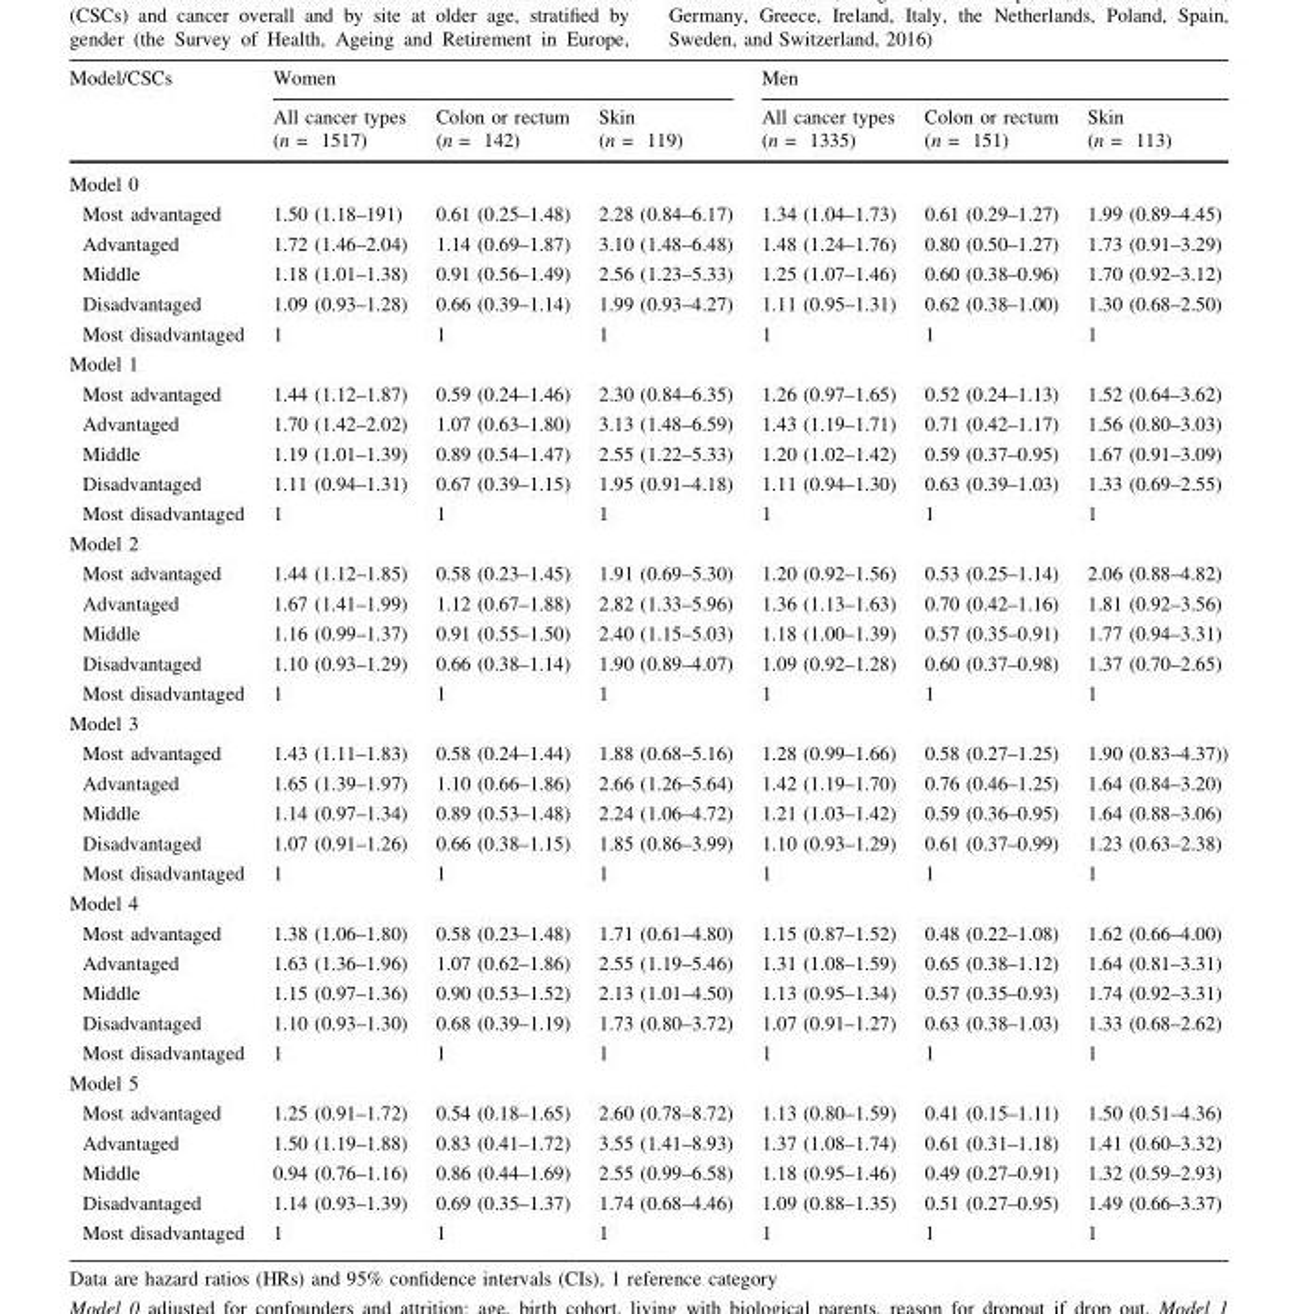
<table><thead><tr><td rowspan="3">Model/CSCs</td><td colspan="3">Women</td><td colspan="3">Men</td></tr><tr><td rowspan="2">All cancer types (n = 1517)</td><td rowspan="2">Colon or rectum (n = 142)</td><td rowspan="2">Skin (n = 119)</td><td rowspan="2">All cancer types (n = 1335)</td><td rowspan="2">Colon or rectum (n = 151)</td><td rowspan="2">Skin (n = 113)</td></tr><tr></tr></thead><tbody><tr><td colspan="7">Model 0</td></tr><tr><td>Most advantaged</td><td>1.50 (1.18–191)</td><td>0.61 (0.25–1.48)</td><td>2.28 (0.84–6.17)</td><td>1.34 (1.04–1.73)</td><td>0.61 (0.29–1.27)</td><td>1.99 (0.89–4.45)</td></tr><tr><td>Advantaged</td><td>1.72 (1.46–2.04)</td><td>1.14 (0.69–1.87)</td><td>3.10 (1.48–6.48)</td><td>1.48 (1.24–1.76)</td><td>0.80 (0.50–1.27)</td><td>1.73 (0.91–3.29)</td></tr><tr><td>Middle</td><td>1.18 (1.01–1.38)</td><td>0.91 (0.56–1.49)</td><td>2.56 (1.23–5.33)</td><td>1.25 (1.07–1.46)</td><td>0.60 (0.38–0.96)</td><td>1.70 (0.92–3.12)</td></tr><tr><td>Disadvantaged</td><td>1.09 (0.93–1.28)</td><td>0.66 (0.39–1.14)</td><td>1.99 (0.93–4.27)</td><td>1.11 (0.95–1.31)</td><td>0.62 (0.38–1.00)</td><td>1.30 (0.68–2.50)</td></tr><tr><td>Most disadvantaged</td><td>1</td><td>1</td><td>1</td><td>1</td><td>1</td><td>1</td></tr><tr><td colspan="7">Model 1</td></tr><tr><td>Most advantaged</td><td>1.44 (1.12–1.87)</td><td>0.59 (0.24–1.46)</td><td>2.30 (0.84–6.35)</td><td>1.26 (0.97–1.65)</td><td>0.52 (0.24–1.13)</td><td>1.52 (0.64–3.62)</td></tr><tr><td>Advantaged</td><td>1.70 (1.42–2.02)</td><td>1.07 (0.63–1.80)</td><td>3.13 (1.48–6.59)</td><td>1.43 (1.19–1.71)</td><td>0.71 (0.42–1.17)</td><td>1.56 (0.80–3.03)</td></tr><tr><td>Middle</td><td>1.19 (1.01–1.39)</td><td>0.89 (0.54–1.47)</td><td>2.55 (1.22–5.33)</td><td>1.20 (1.02–1.42)</td><td>0.59 (0.37–0.95)</td><td>1.67 (0.91–3.09)</td></tr><tr><td>Disadvantaged</td><td>1.11 (0.94–1.31)</td><td>0.67 (0.39–1.15)</td><td>1.95 (0.91–4.18)</td><td>1.11 (0.94–1.30)</td><td>0.63 (0.39–1.03)</td><td>1.33 (0.69–2.55)</td></tr><tr><td>Most disadvantaged</td><td>1</td><td>1</td><td>1</td><td>1</td><td>1</td><td>1</td></tr><tr><td colspan="7">Model 2</td></tr><tr><td>Most advantaged</td><td>1.44 (1.12–1.85)</td><td>0.58 (0.23–1.45)</td><td>1.91 (0.69–5.30)</td><td>1.20 (0.92–1.56)</td><td>0.53 (0.25–1.14)</td><td>2.06 (0.88–4.82)</td></tr><tr><td>Advantaged</td><td>1.67 (1.41–1.99)</td><td>1.12 (0.67–1.88)</td><td>2.82 (1.33–5.96)</td><td>1.36 (1.13–1.63)</td><td>0.70 (0.42–1.16)</td><td>1.81 (0.92–3.56)</td></tr><tr><td>Middle</td><td>1.16 (0.99–1.37)</td><td>0.91 (0.55–1.50)</td><td>2.40 (1.15–5.03)</td><td>1.18 (1.00–1.39)</td><td>0.57 (0.35–0.91)</td><td>1.77 (0.94–3.31)</td></tr><tr><td>Disadvantaged</td><td>1.10 (0.93–1.29)</td><td>0.66 (0.38–1.14)</td><td>1.90 (0.89–4.07)</td><td>1.09 (0.92–1.28)</td><td>0.60 (0.37–0.98)</td><td>1.37 (0.70–2.65)</td></tr><tr><td>Most disadvantaged</td><td>1</td><td>1</td><td>1</td><td>1</td><td>1</td><td>1</td></tr><tr><td colspan="7">Model 3</td></tr><tr><td>Most advantaged</td><td>1.43 (1.11–1.83)</td><td>0.58 (0.24–1.44)</td><td>1.88 (0.68–5.16)</td><td>1.28 (0.99–1.66)</td><td>0.58 (0.27–1.25)</td><td>1.90 (0.83–4.37))</td></tr><tr><td>Advantaged</td><td>1.65 (1.39–1.97)</td><td>1.10 (0.66–1.86)</td><td>2.66 (1.26–5.64)</td><td>1.42 (1.19–1.70)</td><td>0.76 (0.46–1.25)</td><td>1.64 (0.84–3.20)</td></tr><tr><td>Middle</td><td>1.14 (0.97–1.34)</td><td>0.89 (0.53–1.48)</td><td>2.24 (1.06–4.72)</td><td>1.21 (1.03–1.42)</td><td>0.59 (0.36–0.95)</td><td>1.64 (0.88–3.06)</td></tr><tr><td>Disadvantaged</td><td>1.07 (0.91–1.26)</td><td>0.66 (0.38–1.15)</td><td>1.85 (0.86–3.99)</td><td>1.10 (0.93–1.29)</td><td>0.61 (0.37–0.99)</td><td>1.23 (0.63–2.38)</td></tr><tr><td>Most disadvantaged</td><td>1</td><td>1</td><td>1</td><td>1</td><td>1</td><td>1</td></tr><tr><td colspan="7">Model 4</td></tr><tr><td>Most advantaged</td><td>1.38 (1.06–1.80)</td><td>0.58 (0.23–1.48)</td><td>1.71 (0.61–4.80)</td><td>1.15 (0.87–1.52)</td><td>0.48 (0.22–1.08)</td><td>1.62 (0.66–4.00)</td></tr><tr><td>Advantaged</td><td>1.63 (1.36–1.96)</td><td>1.07 (0.62–1.86)</td><td>2.55 (1.19–5.46)</td><td>1.31 (1.08–1.59)</td><td>0.65 (0.38–1.12)</td><td>1.64 (0.81–3.31)</td></tr><tr><td>Middle</td><td>1.15 (0.97–1.36)</td><td>0.90 (0.53–1.52)</td><td>2.13 (1.01–4.50)</td><td>1.13 (0.95–1.34)</td><td>0.57 (0.35–0.93)</td><td>1.74 (0.92–3.31)</td></tr><tr><td>Disadvantaged</td><td>1.10 (0.93–1.30)</td><td>0.68 (0.39–1.19)</td><td>1.73 (0.80–3.72)</td><td>1.07 (0.91–1.27)</td><td>0.63 (0.38–1.03)</td><td>1.33 (0.68–2.62)</td></tr><tr><td>Most disadvantaged</td><td>1</td><td>1</td><td>1</td><td>1</td><td>1</td><td>1</td></tr><tr><td colspan="7">Model 5</td></tr><tr><td>Most advantaged</td><td>1.25 (0.91–1.72)</td><td>0.54 (0.18–1.65)</td><td>2.60 (0.78–8.72)</td><td>1.13 (0.80–1.59)</td><td>0.41 (0.15–1.11)</td><td>1.50 (0.51–4.36)</td></tr><tr><td>Advantaged</td><td>1.50 (1.19–1.88)</td><td>0.83 (0.41–1.72)</td><td>3.55 (1.41–8.93)</td><td>1.37 (1.08–1.74)</td><td>0.61 (0.31–1.18)</td><td>1.41 (0.60–3.32)</td></tr><tr><td>Middle</td><td>0.94 (0.76–1.16)</td><td>0.86 (0.44–1.69)</td><td>2.55 (0.99–6.58)</td><td>1.18 (0.95–1.46)</td><td>0.49 (0.27–0.91)</td><td>1.32 (0.59–2.93)</td></tr><tr><td>Disadvantaged</td><td>1.14 (0.93–1.39)</td><td>0.69 (0.35–1.37)</td><td>1.74 (0.68–4.46)</td><td>1.09 (0.88–1.35)</td><td>0.51 (0.27–0.95)</td><td>1.49 (0.66–3.37)</td></tr><tr><td>Most disadvantaged</td><td>1</td><td>1</td><td>1</td><td>1</td><td>1</td><td>1</td></tr></tbody></table>